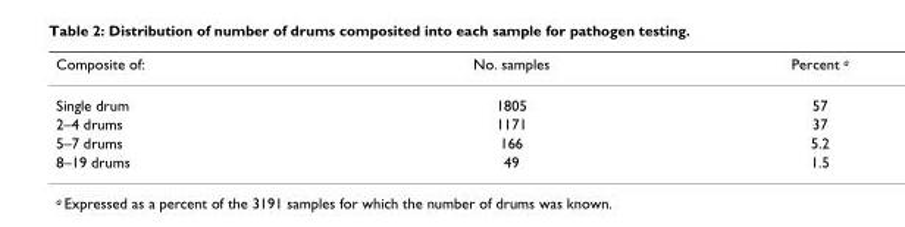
<table><thead><tr><td>Composite of:</td><td>No. samples</td><td>Percent <sup>a</sup></td></tr></thead><tbody><tr><td>Single drum</td><td>1805</td><td>57</td></tr><tr><td>2–4 drums</td><td>1171</td><td>37</td></tr><tr><td>5–7 drums</td><td>166</td><td>5.2</td></tr><tr><td>8–19 drums</td><td>49</td><td>1.5</td></tr></tbody></table>